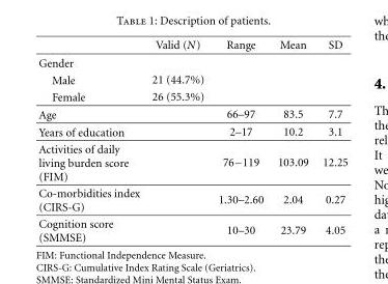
<table><thead><tr><td></td><td>Valid (N)</td><td>Range</td><td>Mean</td><td>SD</td></tr></thead><tbody><tr><td colspan="5">Gender</td></tr><tr><td>Male</td><td>21 (44.7%)</td><td></td><td></td><td></td></tr><tr><td>Female</td><td>26 (55.3%)</td><td></td><td></td><td></td></tr><tr><td>Age</td><td></td><td>66–97</td><td>83.5</td><td>7.7</td></tr><tr><td>Years of education</td><td></td><td>2–17</td><td>10.2</td><td>3.1</td></tr><tr><td>Activities of daily living burden score (FIM)</td><td></td><td>76−119</td><td>103.09</td><td>12.25</td></tr><tr><td>Co-morbidities index (CIRS-G)</td><td></td><td>1.30–2.60</td><td>2.04</td><td>0.27</td></tr><tr><td>Cognition score (SMMSE)</td><td></td><td>10–30</td><td>23.79</td><td>4.05</td></tr></tbody></table>